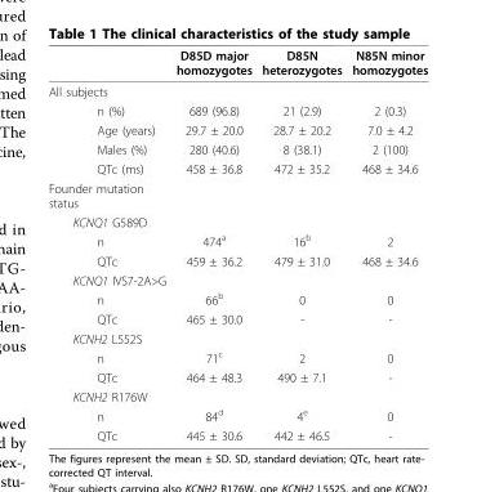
<table><thead><tr><td></td><td>D85D major homozygotes</td><td>D85N heterozygotes</td><td>N85N minor homozygotes</td></tr></thead><tbody><tr><td colspan="4">All subjects</td></tr><tr><td>n (%)</td><td>689 (96.8)</td><td>21 (2.9)</td><td>2 (0.3)</td></tr><tr><td>Age (years)</td><td>29.7 ± 20.0</td><td>28.7 ± 20.2</td><td>7.0 ± 4.2</td></tr><tr><td>Males (%)</td><td>280 (40.6)</td><td>8 (38.1)</td><td>2 (100)</td></tr><tr><td>QTc (ms)</td><td>458 ± 36.8</td><td>472 ± 35.2</td><td>468 ± 34.6</td></tr><tr><td colspan="4">Founder mutation status</td></tr><tr><td colspan="4">KCNQ1 G589D</td></tr><tr><td>n</td><td>474<sup>a</sup></td><td>16<sup>b</sup></td><td>2</td></tr><tr><td>QTc</td><td>459 ± 36.2</td><td>479 ± 31.0</td><td>468 ± 34.6</td></tr><tr><td colspan="4">KCNQ1 IVS7-2A&gt;G</td></tr><tr><td>n</td><td>66<sup>b</sup></td><td>0</td><td>0</td></tr><tr><td>QTc</td><td>465 ± 30.0</td><td>-</td><td>-</td></tr><tr><td colspan="4">KCNH2 L552S</td></tr><tr><td>n</td><td>71<sup>c</sup></td><td>2</td><td>0</td></tr><tr><td>QTc</td><td>464 ± 48.3</td><td>490 ± 7.1</td><td>-</td></tr><tr><td colspan="4">KCNH2 R176W</td></tr><tr><td>n</td><td>84<sup>d</sup></td><td>4<sup>e</sup></td><td>0</td></tr><tr><td>QTc</td><td>445 ± 30.6</td><td>442 ± 46.5</td><td>-</td></tr></tbody></table>